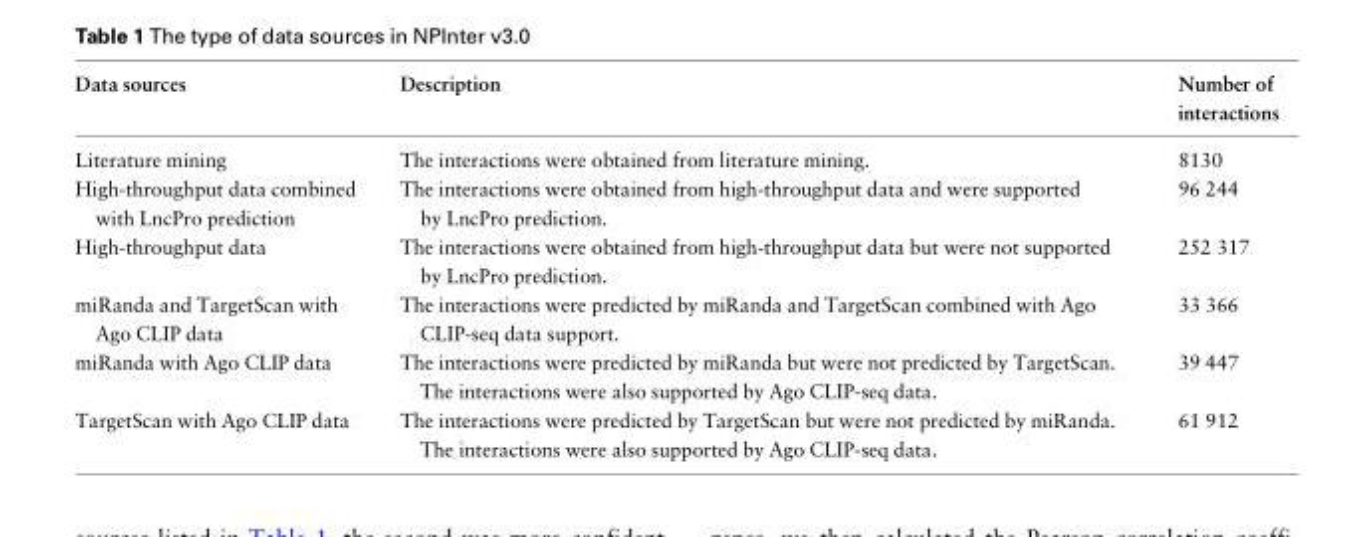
<table><thead><tr><td>Data sources</td><td>Description</td><td>Number of interactions</td></tr></thead><tbody><tr><td>Literature mining</td><td>The interactions were obtained from literature mining.</td><td>8130</td></tr><tr><td>High-throughput data combined with LncPro prediction</td><td>The interactions were obtained from high-throughput data and were supported by LncPro prediction.</td><td>96 244</td></tr><tr><td>High-throughput data</td><td>The interactions were obtained from high-throughput data but were not supported by LncPro prediction.</td><td>252 317</td></tr><tr><td>miRanda and TargetScan with Ago CLIP data</td><td>The interactions were predicted by miRanda and TargetScan combined with Ago CLIP-seq data support.</td><td>33 366</td></tr><tr><td>miRanda with Ago CLIP data</td><td>The interactions were predicted by miRanda but were not predicted by TargetScan. The interactions were also supported by Ago CLIP-seq data.</td><td>39 447</td></tr><tr><td>TargetScan with Ago CLIP data</td><td>The interactions were predicted by TargetScan but were not predicted by miRanda. The interactions were also supported by Ago CLIP-seq data.</td><td>61 912</td></tr></tbody></table>